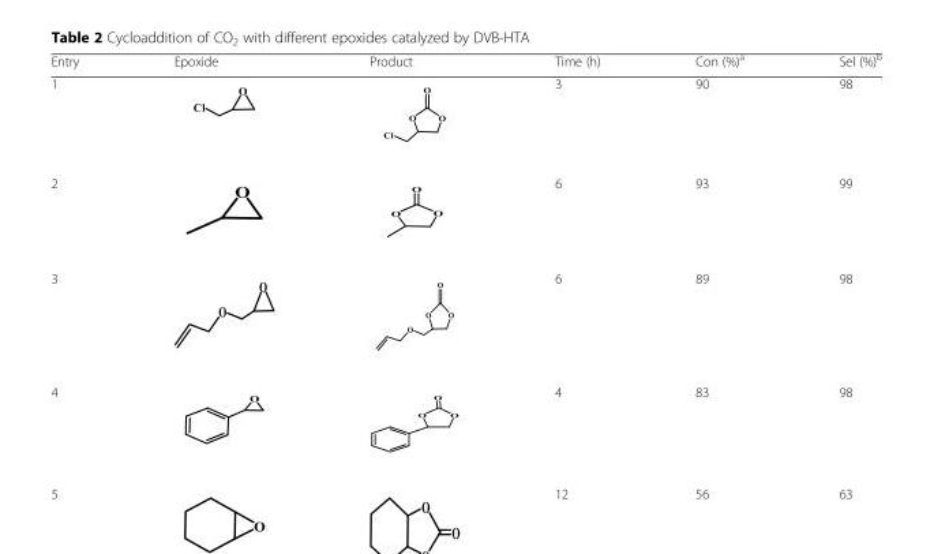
<table><thead><tr><td>Entry</td><td>Epoxide</td><td>Product</td><td>Time (h)</td><td>Con (%)<sup>a</sup></td><td>Sel (%)<sup>b</sup></td></tr></thead><tbody><tr><td>1</td><td></td><td></td><td>3</td><td>90</td><td>98</td></tr><tr><td>2</td><td></td><td></td><td>6</td><td>93</td><td>99</td></tr><tr><td>3</td><td></td><td></td><td>6</td><td>89</td><td>98</td></tr><tr><td>4</td><td></td><td></td><td>4</td><td>83</td><td>98</td></tr><tr><td>5</td><td></td><td></td><td>12</td><td>56</td><td>63</td></tr></tbody></table>